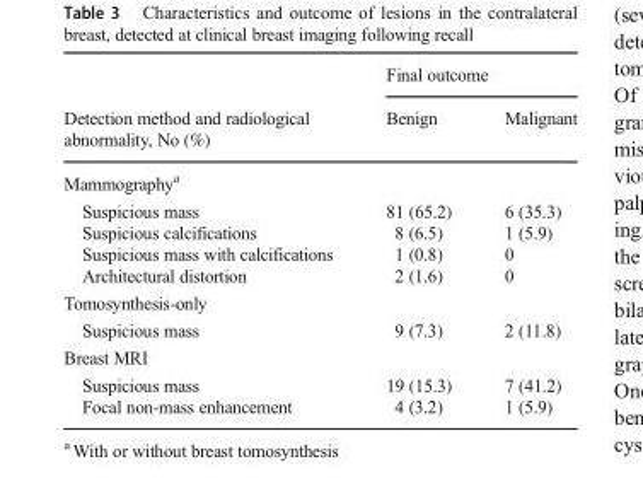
<table><thead><tr><td rowspan="2">Detection method and radiological abnormality, No (%)</td><td colspan="2">Final outcome</td></tr><tr><td>Benign</td><td>Malignant</td></tr></thead><tbody><tr><td colspan="3">Mammography<sup>a</sup></td></tr><tr><td>Suspicious mass Suspicious calcifications Suspicious mass with calcifications Architectural distortion</td><td>81 (65.2) 8 (6.5) 1 (0.8) 2 (1.6)</td><td>6 (35.3) 1 (5.9) 0 0</td></tr><tr><td colspan="3">Tomosynthesis-only</td></tr><tr><td>Suspicious mass</td><td>9 (7.3)</td><td>2 (11.8)</td></tr><tr><td colspan="3">Breast MRI</td></tr><tr><td>Suspicious mass Focal non-mass enhancement</td><td>19 (15.3) 4 (3.2)</td><td>7 (41.2) 1 (5.9)</td></tr></tbody></table>